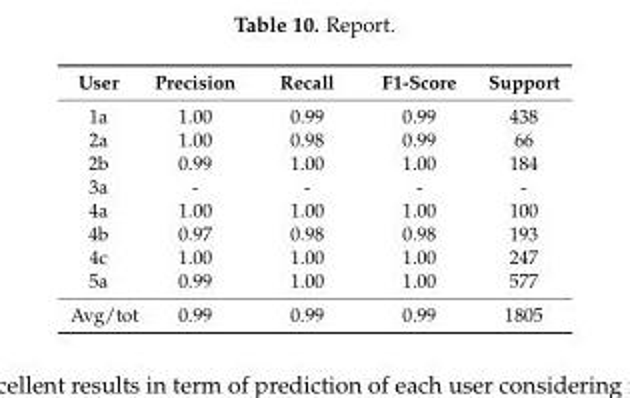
<table><thead><tr><td>User</td><td>Precision</td><td>Recall</td><td>F1-Score</td><td>Support</td></tr></thead><tbody><tr><td>1a</td><td>1.00</td><td>0.99</td><td>0.99</td><td>438</td></tr><tr><td>2a</td><td>1.00</td><td>0.98</td><td>0.99</td><td>66</td></tr><tr><td>2b</td><td>0.99</td><td>1.00</td><td>1.00</td><td>184</td></tr><tr><td>3a</td><td>-</td><td>-</td><td>-</td><td>-</td></tr><tr><td>4a</td><td>1.00</td><td>1.00</td><td>1.00</td><td>100</td></tr><tr><td>4b</td><td>0.97</td><td>0.98</td><td>0.98</td><td>193</td></tr><tr><td>4c</td><td>1.00</td><td>1.00</td><td>1.00</td><td>247</td></tr><tr><td>5a</td><td>0.99</td><td>1.00</td><td>1.00</td><td>577</td></tr><tr><td>Avg/tot</td><td>0.99</td><td>0.99</td><td>0.99</td><td>1805</td></tr></tbody></table>